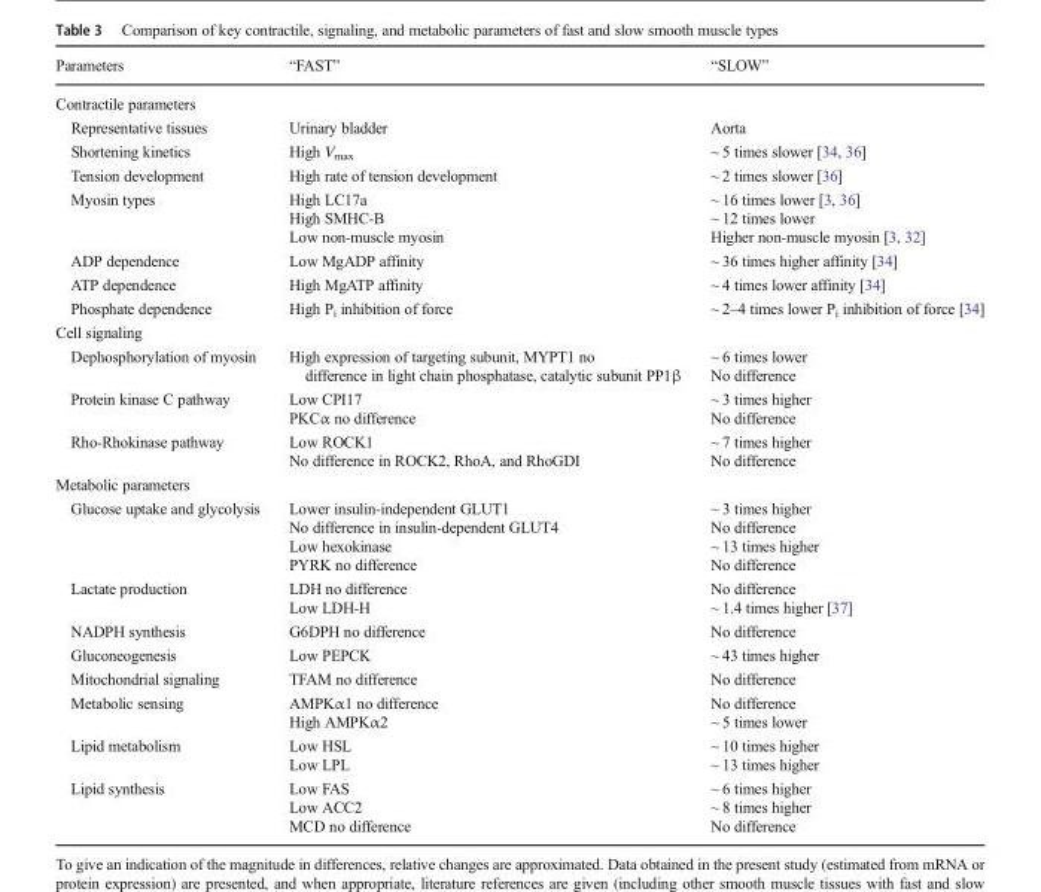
<table><thead><tr><td>Parameters</td><td>“FAST”</td><td>“SLOW”</td></tr></thead><tbody><tr><td colspan="3">Contractile parameters</td></tr><tr><td>Representative tissues</td><td>Urinary bladder</td><td>Aorta</td></tr><tr><td>Shortening kinetics</td><td>High V<sub>max</sub></td><td>~ 5 times slower [34, 36]</td></tr><tr><td>Tension development</td><td>High rate of tension development</td><td>~ 2 times slower [36]</td></tr><tr><td>Myosin types</td><td>High LC17a High SMHC-B Low non-muscle myosin</td><td>~ 16 times lower [3, 36] ~ 12 times lower Higher non-muscle myosin [3, 32]</td></tr><tr><td>ADP dependence</td><td>Low MgADP affinity</td><td>~ 36 times higher affinity [34]</td></tr><tr><td>ATP dependence</td><td>High MgATP affinity</td><td>~ 4 times lower affinity [34]</td></tr><tr><td>Phosphate dependence</td><td>High P<sub>i</sub> inhibition of force</td><td>~ 2–4 times lower P<sub>i</sub> inhibition of force [34]</td></tr><tr><td colspan="3">Cell signaling</td></tr><tr><td>Dephosphorylation of myosin</td><td>High expression of targeting subunit, MYPT1 no difference in light chain phosphatase, catalytic subunit PP1β</td><td>~ 6 times lower No difference</td></tr><tr><td>Protein kinase C pathway</td><td>Low CPI17 PKCα no difference</td><td>~ 3 times higher No difference</td></tr><tr><td>Rho-Rhokinase pathway</td><td>Low ROCK1 No difference in ROCK2, RhoA, and RhoGDI</td><td>~ 7 times higher No difference</td></tr><tr><td colspan="3">Metabolic parameters</td></tr><tr><td>Glucose uptake and glycolysis</td><td>Lower insulin-independent GLUT1 No difference in insulin-dependent GLUT4 Low hexokinase PYRK no difference</td><td>~ 3 times higher No difference ~ 13 times higher No difference</td></tr><tr><td>Lactate production</td><td>LDH no difference Low LDH-H</td><td>No difference ~ 1.4 times higher [37]</td></tr><tr><td>NADPH synthesis</td><td>G6DPH no difference</td><td>No difference</td></tr><tr><td>Gluconeogenesis</td><td>Low PEPCK</td><td>~ 43 times higher</td></tr><tr><td>Mitochondrial signaling</td><td>TFAM no difference</td><td>No difference</td></tr><tr><td>Metabolic sensing</td><td>AMPKα1 no difference High AMPKα2</td><td>No difference ~ 5 times lower</td></tr><tr><td>Lipid metabolism</td><td>Low HSL Low LPL</td><td>~ 10 times higher ~ 13 times higher</td></tr><tr><td>Lipid synthesis</td><td>Low FAS Low ACC2 MCD no difference</td><td>~ 6 times higher ~ 8 times higher No difference</td></tr></tbody></table>